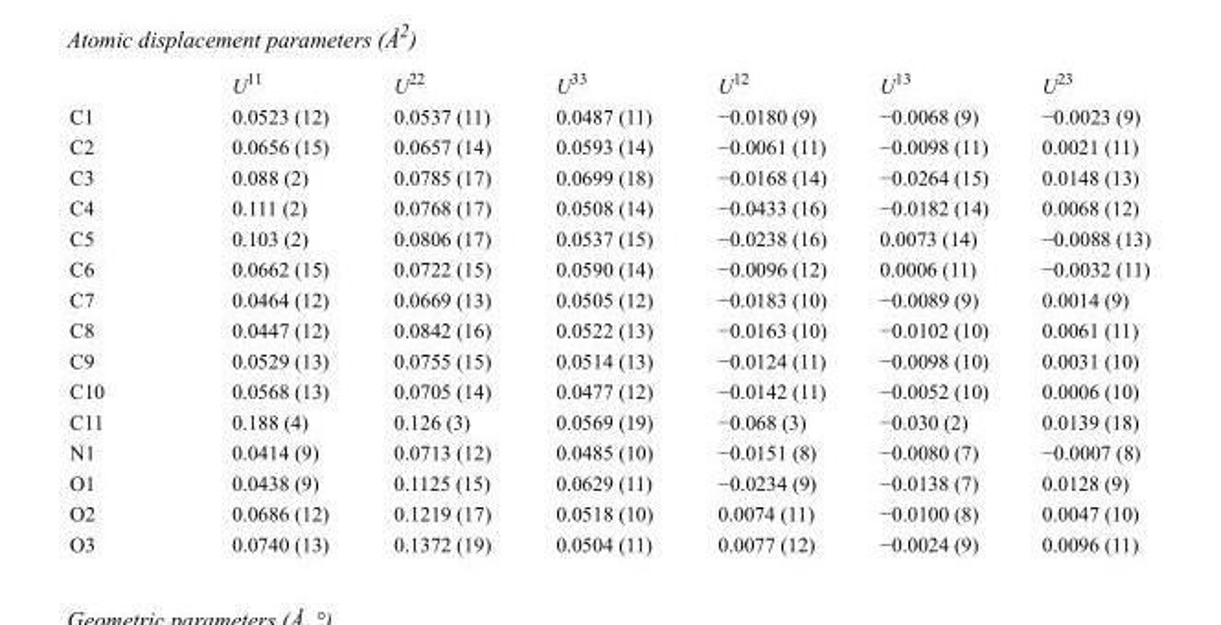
<table><thead><tr><td></td><td>U<sup>11</sup></td><td>U<sup>22</sup></td><td>U<sup>33</sup></td><td>U<sup>12</sup></td><td>U<sup>13</sup></td><td>U<sup>23</sup></td></tr></thead><tbody><tr><td>C1</td><td>0.0523 (12)</td><td>0.0537 (11)</td><td>0.0487 (11)</td><td>−0.0180 (9)</td><td>−0.0068 (9)</td><td>−0.0023 (9)</td></tr><tr><td>C2</td><td>0.0656 (15)</td><td>0.0657 (14)</td><td>0.0593 (14)</td><td>−0.0061 (11)</td><td>−0.0098 (11)</td><td>0.0021 (11)</td></tr><tr><td>C3</td><td>0.088 (2)</td><td>0.0785 (17)</td><td>0.0699 (18)</td><td>−0.0168 (14)</td><td>−0.0264 (15)</td><td>0.0148 (13)</td></tr><tr><td>C4</td><td>0.111 (2)</td><td>0.0768 (17)</td><td>0.0508 (14)</td><td>−0.0433 (16)</td><td>−0.0182 (14)</td><td>0.0068 (12)</td></tr><tr><td>C5</td><td>0.103 (2)</td><td>0.0806 (17)</td><td>0.0537 (15)</td><td>−0.0238 (16)</td><td>0.0073 (14)</td><td>−0.0088 (13)</td></tr><tr><td>C6</td><td>0.0662 (15)</td><td>0.0722 (15)</td><td>0.0590 (14)</td><td>−0.0096 (12)</td><td>0.0006 (11)</td><td>−0.0032 (11)</td></tr><tr><td>C7</td><td>0.0464 (12)</td><td>0.0669 (13)</td><td>0.0505 (12)</td><td>−0.0183 (10)</td><td>−0.0089 (9)</td><td>0.0014 (9)</td></tr><tr><td>C8</td><td>0.0447 (12)</td><td>0.0842 (16)</td><td>0.0522 (13)</td><td>−0.0163 (10)</td><td>−0.0102 (10)</td><td>0.0061 (11)</td></tr><tr><td>C9</td><td>0.0529 (13)</td><td>0.0755 (15)</td><td>0.0514 (13)</td><td>−0.0124 (11)</td><td>−0.0098 (10)</td><td>0.0031 (10)</td></tr><tr><td>C10</td><td>0.0568 (13)</td><td>0.0705 (14)</td><td>0.0477 (12)</td><td>−0.0142 (11)</td><td>−0.0052 (10)</td><td>0.0006 (10)</td></tr><tr><td>C11</td><td>0.188 (4)</td><td>0.126 (3)</td><td>0.0569 (19)</td><td>−0.068 (3)</td><td>−0.030 (2)</td><td>0.0139 (18)</td></tr><tr><td>N1</td><td>0.0414 (9)</td><td>0.0713 (12)</td><td>0.0485 (10)</td><td>−0.0151 (8)</td><td>−0.0080 (7)</td><td>−0.0007 (8)</td></tr><tr><td>O1</td><td>0.0438 (9)</td><td>0.1125 (15)</td><td>0.0629 (11)</td><td>−0.0234 (9)</td><td>−0.0138 (7)</td><td>0.0128 (9)</td></tr><tr><td>O2</td><td>0.0686 (12)</td><td>0.1219 (17)</td><td>0.0518 (10)</td><td>0.0074 (11)</td><td>−0.0100 (8)</td><td>0.0047 (10)</td></tr><tr><td>O3</td><td>0.0740 (13)</td><td>0.1372 (19)</td><td>0.0504 (11)</td><td>0.0077 (12)</td><td>−0.0024 (9)</td><td>0.0096 (11)</td></tr></tbody></table>